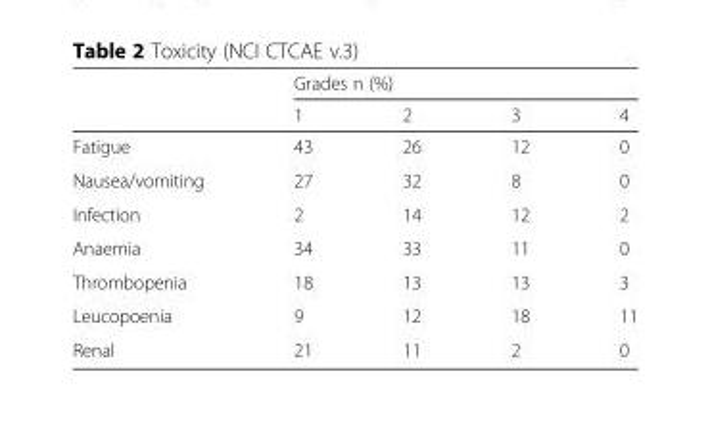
<table><thead><tr><td rowspan="2"></td><td colspan="4">Grades n (%)</td></tr><tr><td>1</td><td>2</td><td>3</td><td>4</td></tr></thead><tbody><tr><td>Fatigue</td><td>43</td><td>26</td><td>12</td><td>0</td></tr><tr><td>Nausea/vomiting</td><td>27</td><td>32</td><td>8</td><td>0</td></tr><tr><td>Infection</td><td>2</td><td>14</td><td>12</td><td>2</td></tr><tr><td>Anaemia</td><td>34</td><td>33</td><td>11</td><td>0</td></tr><tr><td>Thrombopenia</td><td>18</td><td>13</td><td>13</td><td>3</td></tr><tr><td>Leucopoenia</td><td>9</td><td>12</td><td>18</td><td>11</td></tr><tr><td>Renal</td><td>21</td><td>11</td><td>2</td><td>0</td></tr></tbody></table>